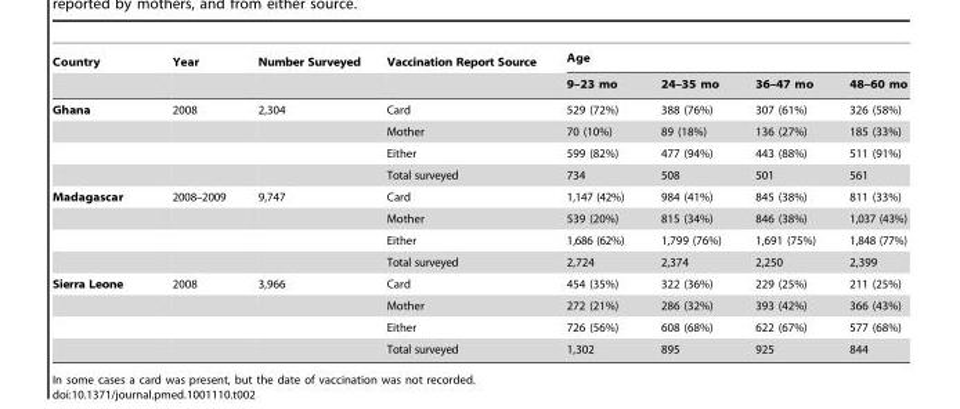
<table><thead><tr><td rowspan="2">Country</td><td rowspan="2">Year</td><td rowspan="2">Number Surveyed</td><td rowspan="2">Vaccination Report Source</td><td colspan="4">Age</td></tr><tr><td>9–23 mo</td><td>24–35 mo</td><td>36–47 mo</td><td>48–60 mo</td></tr></thead><tbody><tr><td rowspan="4">Ghana</td><td>2008</td><td>2,304</td><td>Card</td><td>529 (72%)</td><td>388 (76%)</td><td>307 (61%)</td><td>326 (58%)</td></tr><tr><td></td><td></td><td>Mother</td><td>70 (10%)</td><td>89 (18%)</td><td>136 (27%)</td><td>185 (33%)</td></tr><tr><td></td><td></td><td>Either</td><td>599 (82%)</td><td>477 (94%)</td><td>443 (88%)</td><td>511 (91%)</td></tr><tr><td></td><td></td><td>Total surveyed</td><td>734</td><td>508</td><td>501</td><td>561</td></tr><tr><td rowspan="4">Madagascar</td><td>2008–2009</td><td>9,747</td><td>Card</td><td>1,147 (42%)</td><td>984 (41%)</td><td>845 (38%)</td><td>811 (33%)</td></tr><tr><td></td><td></td><td>Mother</td><td>539 (20%)</td><td>815 (34%)</td><td>846 (38%)</td><td>1,037 (43%)</td></tr><tr><td></td><td></td><td>Either</td><td>1,686 (62%)</td><td>1,799 (76%)</td><td>1,691 (75%)</td><td>1,848 (77%)</td></tr><tr><td></td><td></td><td>Total surveyed</td><td>2,724</td><td>2,374</td><td>2,250</td><td>2,399</td></tr><tr><td rowspan="4">Sierra Leone</td><td>2008</td><td>3,966</td><td>Card</td><td>454 (35%)</td><td>322 (36%)</td><td>229 (25%)</td><td>211 (25%)</td></tr><tr><td></td><td></td><td>Mother</td><td>272 (21%)</td><td>286 (32%)</td><td>393 (42%)</td><td>366 (43%)</td></tr><tr><td></td><td></td><td>Either</td><td>726 (56%)</td><td>608 (68%)</td><td>622 (67%)</td><td>577 (68%)</td></tr><tr><td></td><td></td><td>Total surveyed</td><td>1,302</td><td>895</td><td>925</td><td>844</td></tr></tbody></table>